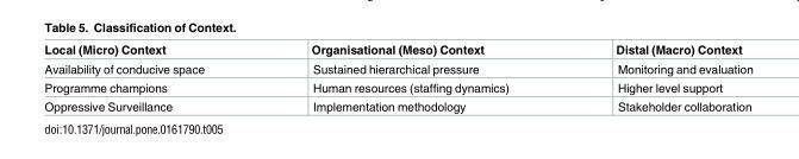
<table><thead><tr><td>Local (Micro) Context</td><td>Organisational (Meso) Context</td><td>Distal (Macro) Context</td></tr></thead><tbody><tr><td>Availability of conducive space</td><td>Sustained hierarchical pressure</td><td>Monitoring and evaluation</td></tr><tr><td>Programme champions</td><td>Human resources (staffing dynamics)</td><td>Higher level support</td></tr><tr><td>Oppressive Surveillance</td><td>Implementation methodology</td><td>Stakeholder collaboration</td></tr></tbody></table>